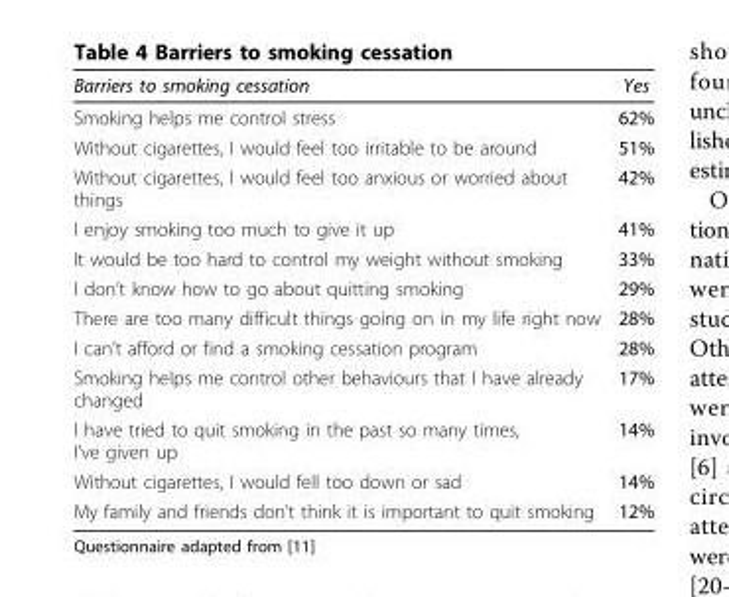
<table><thead><tr><td>Barriers to smoking cessation</td><td>Yes</td></tr></thead><tbody><tr><td>Smoking helps me control stress</td><td>62%</td></tr><tr><td>Without cigarettes, I would feel too irritable to be around</td><td>51%</td></tr><tr><td>Without cigarettes, I would feel too anxious or worried about things</td><td>42%</td></tr><tr><td>I enjoy smoking too much to give it up</td><td>41%</td></tr><tr><td>It would be too hard to control my weight without smoking</td><td>33%</td></tr><tr><td>I don’t know how to go about quitting smoking</td><td>29%</td></tr><tr><td>There are too many difficult things going on in my life right now</td><td>28%</td></tr><tr><td>I can’t afford or find a smoking cessation program</td><td>28%</td></tr><tr><td>Smoking helps me control other behaviours that I have already changed</td><td>17%</td></tr><tr><td>I have tried to quit smoking in the past so many times, I’ve given up</td><td>14%</td></tr><tr><td>Without cigarettes, I would fell too down or sad</td><td>14%</td></tr><tr><td>My family and friends don’t think it is important to quit smoking</td><td>12%</td></tr></tbody></table>